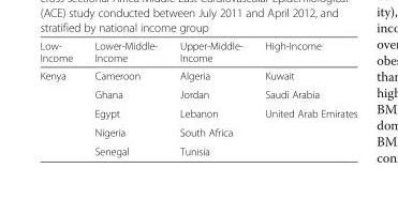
<table><thead><tr><td>Low- Income</td><td>Lower-Middle- Income</td><td>Upper-Middle- Income</td><td>High-Income</td></tr></thead><tbody><tr><td rowspan="5">Kenya</td><td>Cameroon</td><td>Algeria</td><td>Kuwait</td></tr><tr><td>Ghana</td><td>Jordan</td><td>Saudi Arabia</td></tr><tr><td>Egypt</td><td>Lebanon</td><td rowspan="3">United Arab Emirates</td></tr><tr><td>Nigeria</td><td>South Africa</td></tr><tr><td>Senegal</td><td>Tunisia</td></tr></tbody></table>